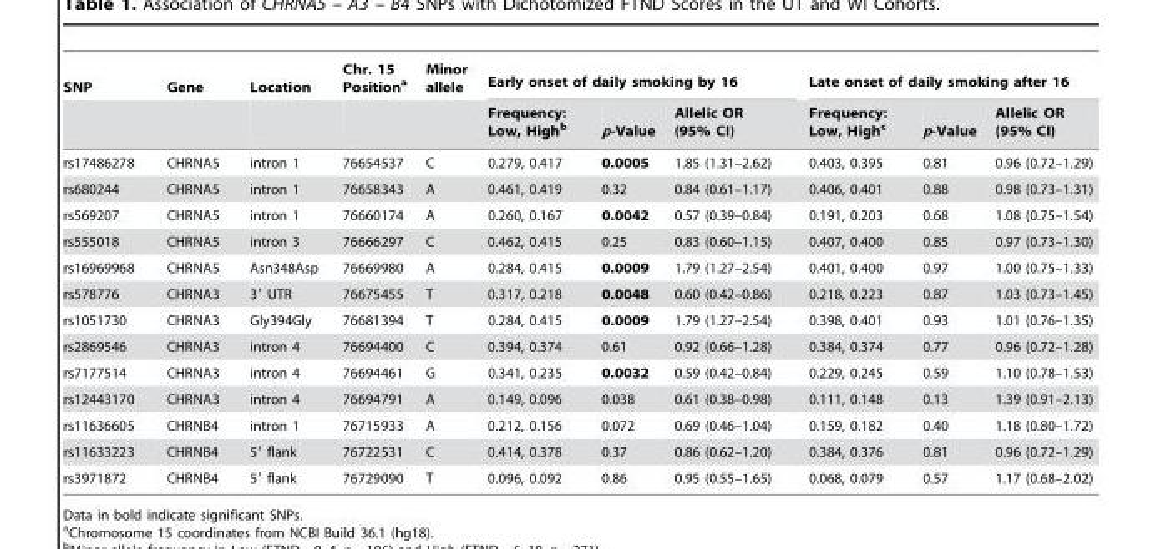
<table><thead><tr><td rowspan="2">SNP</td><td rowspan="2">Gene</td><td rowspan="2">Location</td><td rowspan="2">Chr. 15 Position<sup>a</sup></td><td rowspan="2">Minor allele</td><td colspan="3">Early onset of daily smoking by 16</td><td colspan="3">Late onset of daily smoking after 16</td></tr><tr><td>Frequency: Low, High<sup>b</sup></td><td>p-Value</td><td>Allelic OR (95% CI)</td><td>Frequency: Low, High<sup>c</sup></td><td>p-Value</td><td>Allelic OR (95% CI)</td></tr></thead><tbody><tr><td>rs17486278</td><td>CHRNA5</td><td>intron 1</td><td>76654537</td><td>C</td><td>0.279, 0.417</td><td>0.0005</td><td>1.85 (1.31–2.62)</td><td>0.403, 0.395</td><td>0.81</td><td>0.96 (0.72–1.29)</td></tr><tr><td>rs680244</td><td>CHRNA5</td><td>intron 1</td><td>76658343</td><td>A</td><td>0.461, 0.419</td><td>0.32</td><td>0.84 (0.61–1.17)</td><td>0.406, 0.401</td><td>0.88</td><td>0.98 (0.73–1.31)</td></tr><tr><td>rs569207</td><td>CHRNA5</td><td>intron 1</td><td>76660174</td><td>A</td><td>0.260, 0.167</td><td>0.0042</td><td>0.57 (0.39–0.84)</td><td>0.191, 0.203</td><td>0.68</td><td>1.08 (0.75–1.54)</td></tr><tr><td>rs555018</td><td>CHRNA5</td><td>intron 3</td><td>76666297</td><td>C</td><td>0.462, 0.415</td><td>0.25</td><td>0.83 (0.60–1.15)</td><td>0.407, 0.400</td><td>0.85</td><td>0.97 (0.73–1.30)</td></tr><tr><td>rs16969968</td><td>CHRNA5</td><td>Asn348Asp</td><td>76669980</td><td>A</td><td>0.284, 0.415</td><td>0.0009</td><td>1.79 (1.27–2.54)</td><td>0.401, 0.400</td><td>0.97</td><td>1.00 (0.75–1.33)</td></tr><tr><td>rs578776</td><td>CHRNA3</td><td>3′ UTR</td><td>76675455</td><td>T</td><td>0.317, 0.218</td><td>0.0048</td><td>0.60 (0.42–0.86)</td><td>0.218, 0.223</td><td>0.87</td><td>1.03 (0.73–1.45)</td></tr><tr><td>rs1051730</td><td>CHRNA3</td><td>Gly394Gly</td><td>76681394</td><td>T</td><td>0.284, 0.415</td><td>0.0009</td><td>1.79 (1.27–2.54)</td><td>0.398, 0.401</td><td>0.93</td><td>1.01 (0.76–1.35)</td></tr><tr><td>rs2869546</td><td>CHRNA3</td><td>intron 4</td><td>76694400</td><td>C</td><td>0.394, 0.374</td><td>0.61</td><td>0.92 (0.66–1.28)</td><td>0.384, 0.374</td><td>0.77</td><td>0.96 (0.72–1.28)</td></tr><tr><td>rs7177514</td><td>CHRNA3</td><td>intron 4</td><td>76694461</td><td>G</td><td>0.341, 0.235</td><td>0.0032</td><td>0.59 (0.42–0.84)</td><td>0.229, 0.245</td><td>0.59</td><td>1.10 (0.78–1.53)</td></tr><tr><td>rs12443170</td><td>CHRNA3</td><td>intron 4</td><td>76694791</td><td>A</td><td>0.149, 0.096</td><td>0.038</td><td>0.61 (0.38–0.98)</td><td>0.111, 0.148</td><td>0.13</td><td>1.39 (0.91–2.13)</td></tr><tr><td>rs11636605</td><td>CHRNB4</td><td>intron 1</td><td>76715933</td><td>A</td><td>0.212, 0.156</td><td>0.072</td><td>0.69 (0.46–1.04)</td><td>0.159, 0.182</td><td>0.40</td><td>1.18 (0.80–1.72)</td></tr><tr><td>rs11633223</td><td>CHRNB4</td><td>5′ flank</td><td>76722531</td><td>C</td><td>0.414, 0.378</td><td>0.37</td><td>0.86 (0.62–1.20)</td><td>0.384, 0.376</td><td>0.81</td><td>0.96 (0.72–1.29)</td></tr><tr><td>rs3971872</td><td>CHRNB4</td><td>5′ flank</td><td>76729090</td><td>T</td><td>0.096, 0.092</td><td>0.86</td><td>0.95 (0.55–1.65)</td><td>0.068, 0.079</td><td>0.57</td><td>1.17 (0.68–2.02)</td></tr></tbody></table>